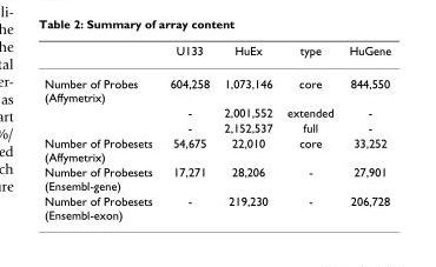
<table><thead><tr><td></td><td>U133</td><td>HuEx</td><td>type</td><td>HuGene</td></tr></thead><tbody><tr><td rowspan="3">Number of Probes (Affymetrix)</td><td>604,258</td><td>1,073,146</td><td>core</td><td>844,550</td></tr><tr><td>-</td><td>2,001,552</td><td>extended</td><td>-</td></tr><tr><td>-</td><td>2,152,537</td><td>full</td><td>-</td></tr><tr><td>Number of Probesets (Affymetrix)</td><td>54,675</td><td>22,010</td><td>core</td><td>33,252</td></tr><tr><td>Number of Probesets (Ensembl-gene)</td><td>17,271</td><td>28,206</td><td>-</td><td>27,901</td></tr><tr><td>Number of Probesets (Ensembl-exon)</td><td>-</td><td>219,230</td><td>-</td><td>206,728</td></tr></tbody></table>